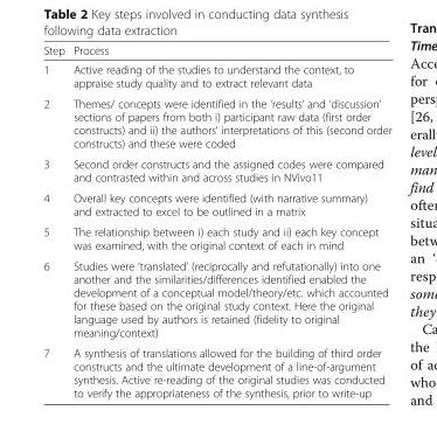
<table><thead><tr><td>Step</td><td>Process</td></tr></thead><tbody><tr><td>1</td><td>Active reading of the studies to understand the context, to appraise study quality and to extract relevant data</td></tr><tr><td>2</td><td>Themes/ concepts were identified in the ‘results’ and ‘discussion’ sections of papers from both i) participant raw data (first order constructs) and ii) the authors’ interpretations of this (second order constructs) and these were coded</td></tr><tr><td>3</td><td>Second order constructs and the assigned codes were compared and contrasted within and across studies in NVivo11</td></tr><tr><td>4</td><td>Overall key concepts were identified (with narrative summary) and extracted to excel to be outlined in a matrix</td></tr><tr><td>5</td><td>The relationship between i) each study and ii) each key concept was examined, with the original context of each in mind</td></tr><tr><td>6</td><td>Studies were ‘translated’ (reciprocally and refutationally) into one another and the similarities/differences identified enabled the development of a conceptual model/theory/etc. which accounted for these based on the original study context. Here the original language used by authors is retained (fidelity to original meaning/context)</td></tr><tr><td>7</td><td>A synthesis of translations allowed for the building of third order constructs and the ultimate development of a line-of-argument synthesis. Active re-reading of the original studies was conducted to verify the appropriateness of the synthesis, prior to write-up</td></tr></tbody></table>